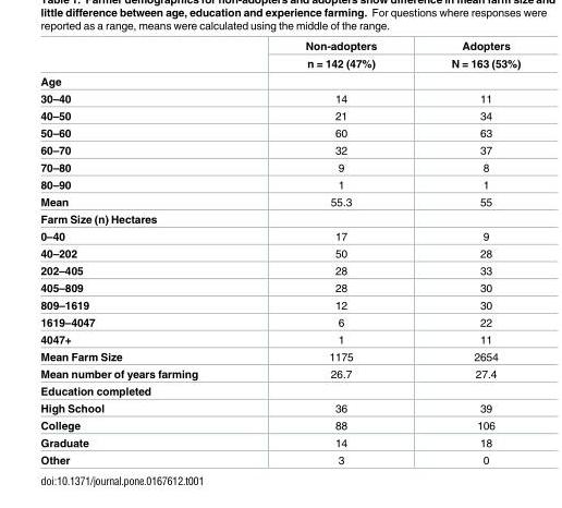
<table><thead><tr><td rowspan="2"></td><td rowspan="2">Non-adopters n = 142 (47%)</td><td rowspan="2">Adopters N = 163 (53%)</td></tr><tr></tr></thead><tbody><tr><td colspan="3">Age</td></tr><tr><td>30–40</td><td>14</td><td>11</td></tr><tr><td>40–50</td><td>21</td><td>34</td></tr><tr><td>50–60</td><td>60</td><td>63</td></tr><tr><td>60–70</td><td>32</td><td>37</td></tr><tr><td>70–80</td><td>9</td><td>8</td></tr><tr><td>80–90</td><td>1</td><td>1</td></tr><tr><td>Mean</td><td>55.3</td><td>55</td></tr><tr><td colspan="3">Farm Size (n) Hectares</td></tr><tr><td>0–40</td><td>17</td><td>9</td></tr><tr><td>40–202</td><td>50</td><td>28</td></tr><tr><td>202–405</td><td>28</td><td>33</td></tr><tr><td>405–809</td><td>28</td><td>30</td></tr><tr><td>809–1619</td><td>12</td><td>30</td></tr><tr><td>1619–4047</td><td>6</td><td>22</td></tr><tr><td>4047+</td><td>1</td><td>11</td></tr><tr><td>Mean Farm Size</td><td>1175</td><td>2654</td></tr><tr><td>Mean number of years farming</td><td>26.7</td><td>27.4</td></tr><tr><td colspan="3">Education completed</td></tr><tr><td>High School</td><td>36</td><td>39</td></tr><tr><td>College</td><td>88</td><td>106</td></tr><tr><td>Graduate</td><td>14</td><td>18</td></tr><tr><td>Other</td><td>3</td><td>0</td></tr></tbody></table>